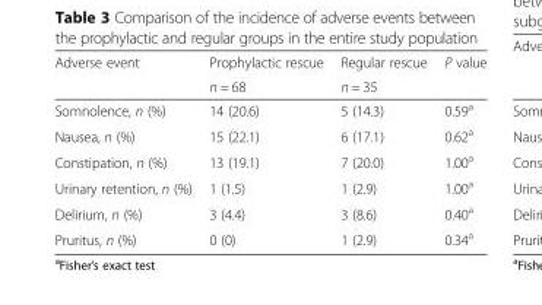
<table><thead><tr><td rowspan="2">Adverse event</td><td rowspan="2">Prophylactic rescue n = 68</td><td rowspan="2">Regular rescue n = 35</td><td rowspan="2">P value</td></tr><tr></tr></thead><tbody><tr><td>Somnolence, n (%)</td><td>14 (20.6)</td><td>5 (14.3)</td><td>0.59<sup>a</sup></td></tr><tr><td>Nausea, n (%)</td><td>15 (22.1)</td><td>6 (17.1)</td><td>0.62<sup>a</sup></td></tr><tr><td>Constipation, n (%)</td><td>13 (19.1)</td><td>7 (20.0)</td><td>1.00<sup>a</sup></td></tr><tr><td>Urinary retention, n (%)</td><td>1 (1.5)</td><td>1 (2.9)</td><td>1.00<sup>a</sup></td></tr><tr><td>Delirium, n (%)</td><td>3 (4.4)</td><td>3 (8.6)</td><td>0.40<sup>a</sup></td></tr><tr><td>Pruritus, n (%)</td><td>0 (0)</td><td>1 (2.9)</td><td>0.34<sup>a</sup></td></tr></tbody></table>